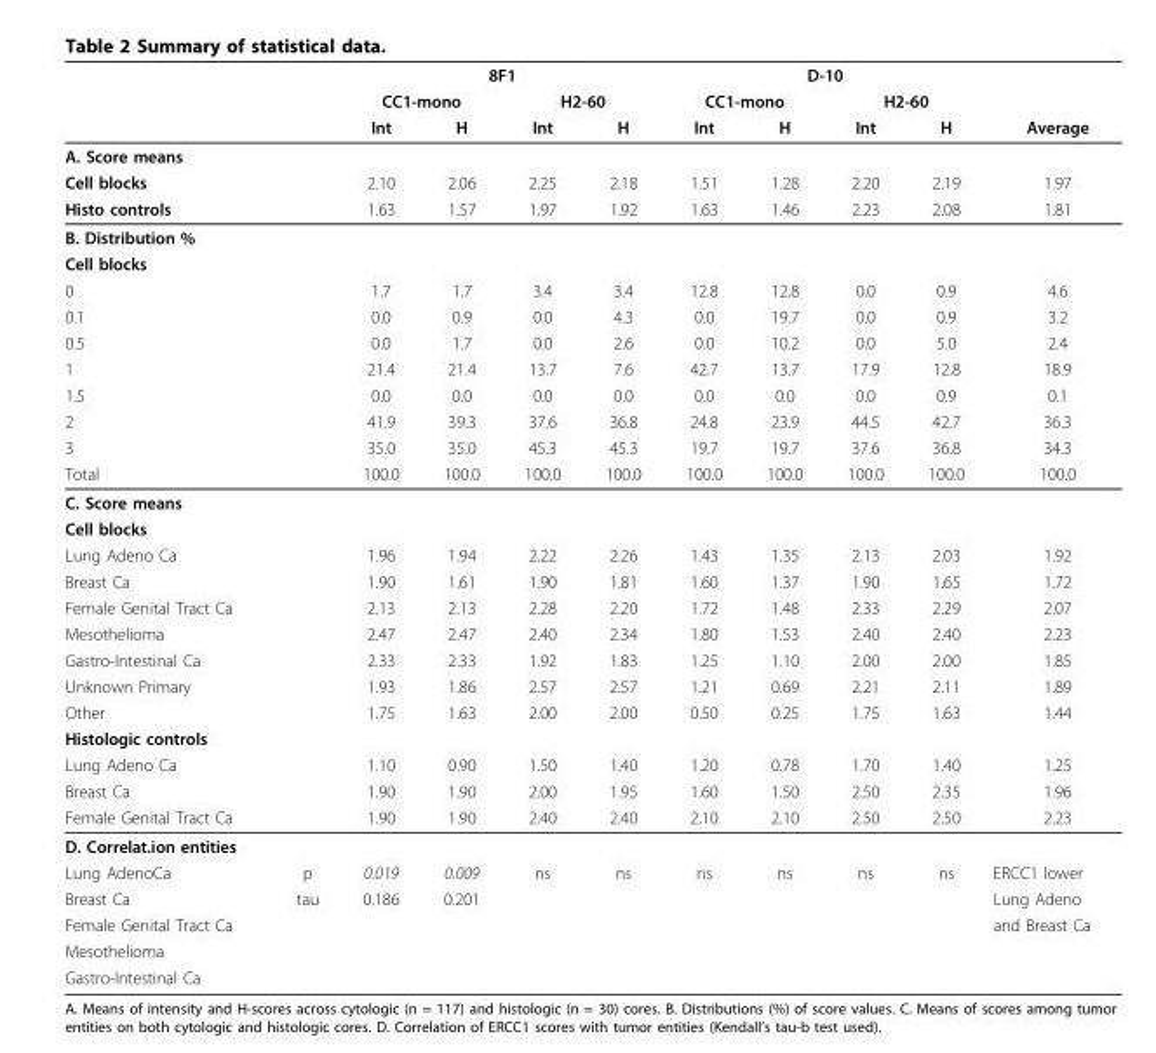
<table><thead><tr><td rowspan="3"></td><td rowspan="3"></td><td colspan="4">8F1</td><td colspan="4">D-10</td><td rowspan="3">Average</td></tr><tr><td colspan="2">CC1-mono</td><td colspan="2">H2-60</td><td colspan="2">CC1-mono</td><td colspan="2">H2-60</td></tr><tr><td>Int</td><td>H</td><td>Int</td><td>H</td><td>Int</td><td>H</td><td>Int</td><td>H</td></tr></thead><tbody><tr><td colspan="11">A. Score means</td></tr><tr><td>Cell blocks</td><td></td><td>2.10</td><td>2.06</td><td>2.25</td><td>2.18</td><td>1.51</td><td>1.28</td><td>2.20</td><td>2.19</td><td>1.97</td></tr><tr><td>Histo controls</td><td></td><td>1.63</td><td>1.57</td><td>1.97</td><td>1.92</td><td>1.63</td><td>1.46</td><td>2.23</td><td>2.08</td><td>1.81</td></tr><tr><td colspan="11">B. Distribution %</td></tr><tr><td colspan="11">Cell blocks</td></tr><tr><td>0</td><td></td><td>1.7</td><td>1.7</td><td>3.4</td><td>3.4</td><td>12.8</td><td>12.8</td><td>0.0</td><td>0.9</td><td>4.6</td></tr><tr><td>0.1</td><td></td><td>0.0</td><td>0.9</td><td>0.0</td><td>4.3</td><td>0.0</td><td>19.7</td><td>0.0</td><td>0.9</td><td>3.2</td></tr><tr><td>0.5</td><td></td><td>0.0</td><td>1.7</td><td>0.0</td><td>2.6</td><td>0.0</td><td>10.2</td><td>0.0</td><td>5.0</td><td>2.4</td></tr><tr><td>1</td><td></td><td>21.4</td><td>21.4</td><td>13.7</td><td>7.6</td><td>42.7</td><td>13.7</td><td>17.9</td><td>12.8</td><td>18.9</td></tr><tr><td>1.5</td><td></td><td>0.0</td><td>0.0</td><td>0.0</td><td>0.0</td><td>0.0</td><td>0.0</td><td>0.0</td><td>0.9</td><td>0.1</td></tr><tr><td>2</td><td></td><td>41.9</td><td>39.3</td><td>37.6</td><td>36.8</td><td>24.8</td><td>23.9</td><td>44.5</td><td>42.7</td><td>36.3</td></tr><tr><td>3</td><td></td><td>35.0</td><td>35.0</td><td>45.3</td><td>45.3</td><td>19.7</td><td>19.7</td><td>37.6</td><td>36.8</td><td>34.3</td></tr><tr><td>Total</td><td></td><td>100.0</td><td>100.0</td><td>100.0</td><td>100.0</td><td>100.0</td><td>100.0</td><td>100.0</td><td>100.0</td><td>100.0</td></tr><tr><td colspan="11">C. Score means</td></tr><tr><td colspan="11">Cell blocks</td></tr><tr><td>Lung Adeno Ca</td><td></td><td>1.96</td><td>1.94</td><td>2.22</td><td>2.26</td><td>1.43</td><td>1.35</td><td>2.13</td><td>2.03</td><td>1.92</td></tr><tr><td>Breast Ca</td><td></td><td>1.90</td><td>1.61</td><td>1.90</td><td>1.81</td><td>1.60</td><td>1.37</td><td>1.90</td><td>1.65</td><td>1.72</td></tr><tr><td>Female Genital Tract Ca</td><td></td><td>2.13</td><td>2.13</td><td>2.28</td><td>2.20</td><td>1.72</td><td>1.48</td><td>2.33</td><td>2.29</td><td>2.07</td></tr><tr><td>Mesothelioma</td><td></td><td>2.47</td><td>2.47</td><td>2.40</td><td>2.34</td><td>1.80</td><td>1.53</td><td>2.40</td><td>2.40</td><td>2.23</td></tr><tr><td>Gastro-Intestinal Ca</td><td></td><td>2.33</td><td>2.33</td><td>1.92</td><td>1.83</td><td>1.25</td><td>1.10</td><td>2.00</td><td>2.00</td><td>1.85</td></tr><tr><td>Unknown Primary</td><td></td><td>1.93</td><td>1.86</td><td>2.57</td><td>2.57</td><td>1.21</td><td>0.69</td><td>2.21</td><td>2.11</td><td>1.89</td></tr><tr><td>Other</td><td></td><td>1.75</td><td>1.63</td><td>2.00</td><td>2.00</td><td>0.50</td><td>0.25</td><td>1.75</td><td>1.63</td><td>1.44</td></tr><tr><td colspan="11">Histologic controls</td></tr><tr><td>Lung Adeno Ca</td><td></td><td>1.10</td><td>0.90</td><td>1.50</td><td>1.40</td><td>1.20</td><td>0.78</td><td>1.70</td><td>1.40</td><td>1.25</td></tr><tr><td>Breast Ca</td><td></td><td>1.90</td><td>1.90</td><td>2.00</td><td>1.95</td><td>1.60</td><td>1.50</td><td>2.50</td><td>2.35</td><td>1.96</td></tr><tr><td>Female Genital Tract Ca</td><td></td><td>1.90</td><td>1.90</td><td>2.40</td><td>2.40</td><td>2.10</td><td>2.10</td><td>2.50</td><td>2.50</td><td>2.23</td></tr><tr><td colspan="11">D. Correlat.ion entities</td></tr><tr><td>Lung AdenoCa</td><td>p</td><td>0.019</td><td>0.009</td><td>ns</td><td>ns</td><td>ns</td><td>ns</td><td>ns</td><td>ns</td><td>ERCC1 lower</td></tr><tr><td>Breast Ca</td><td>tau</td><td>0.186</td><td>0.201</td><td></td><td></td><td></td><td></td><td></td><td></td><td>Lung Adeno</td></tr><tr><td>Female Genital Tract Ca</td><td></td><td></td><td></td><td></td><td></td><td></td><td></td><td></td><td></td><td>and Breast Ca</td></tr><tr><td colspan="11">Mesothelioma</td></tr><tr><td>Gastro-Intestinal Ca</td><td></td><td></td><td></td><td></td><td></td><td></td><td></td><td></td><td></td><td></td></tr></tbody></table>